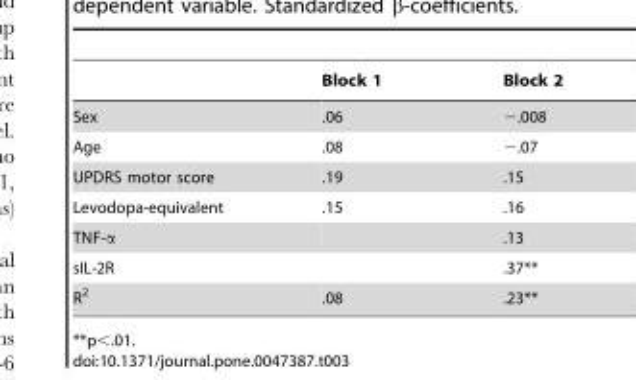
<table><thead><tr><td></td><td>Block 1</td><td>Block 2</td></tr></thead><tbody><tr><td>Sex</td><td>.06</td><td>−.008</td></tr><tr><td>Age</td><td>.08</td><td>−.07</td></tr><tr><td>UPDRS motor score</td><td>.19</td><td>.15</td></tr><tr><td>Levodopa-equivalent</td><td>.15</td><td>.16</td></tr><tr><td>TNF-α</td><td></td><td>.13</td></tr><tr><td>sIL-2R</td><td></td><td>.37**</td></tr><tr><td>R<sup>2</sup></td><td>.08</td><td>.23**</td></tr></tbody></table>